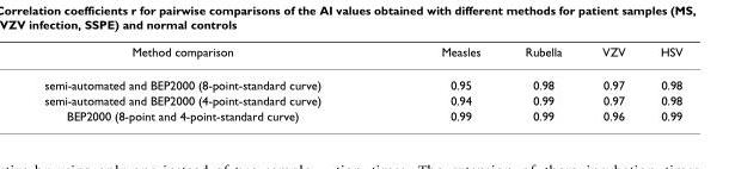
<table><thead><tr><td>Method comparison</td><td>Measles</td><td>Rubella</td><td>VZV</td><td>HSV</td></tr></thead><tbody><tr><td>semi-automated and BEP2000 (8-point-standard curve)</td><td>0.95</td><td>0.98</td><td>0.97</td><td>0.98</td></tr><tr><td>semi-automated and BEP2000 (4-point-standard curve)</td><td>0.94</td><td>0.99</td><td>0.97</td><td>0.98</td></tr><tr><td>BEP2000 (8-point and 4-point-standard curve)</td><td>0.99</td><td>0.99</td><td>0.96</td><td>0.99</td></tr></tbody></table>